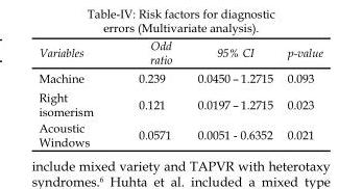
<table><thead><tr><td>Variables</td><td>Odd ratio</td><td>95% CI</td><td>p-value</td></tr></thead><tbody><tr><td>Machine</td><td>0.239</td><td>0.0450 – 1.2715</td><td>0.093</td></tr><tr><td>Right isomerism</td><td>0.121</td><td>0.0197 – 1.2715</td><td>0.023</td></tr><tr><td>Acoustic Windows</td><td>0.0571</td><td>0.0051 - 0.6352</td><td>0.021</td></tr></tbody></table>